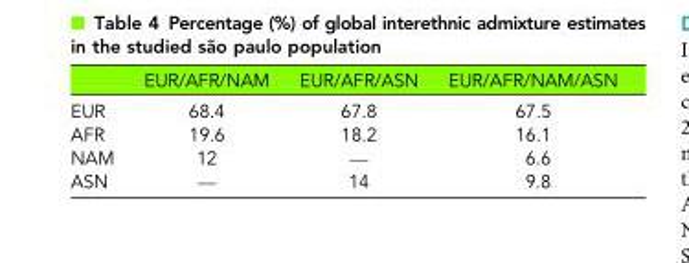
<table><thead><tr><td></td><td>EUR/AFR/NAM</td><td>EUR/AFR/ASN</td><td>EUR/AFR/NAM/ASN</td></tr></thead><tbody><tr><td>EUR</td><td>68.4</td><td>67.8</td><td>67.5</td></tr><tr><td>AFR</td><td>19.6</td><td>18.2</td><td>16.1</td></tr><tr><td>NAM</td><td>12</td><td>—</td><td>6.6</td></tr><tr><td>ASN</td><td>—</td><td>14</td><td>9.8</td></tr></tbody></table>